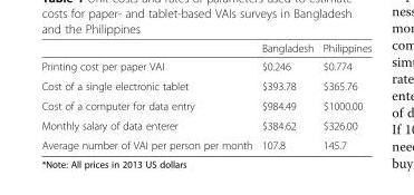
<table><thead><tr><td></td><td>Bangladesh</td><td>Philippines</td></tr></thead><tbody><tr><td>Printing cost per paper VAI</td><td>$0.246</td><td>$0.774</td></tr><tr><td>Cost of a single electronic tablet</td><td>$393.78</td><td>$365.76</td></tr><tr><td>Cost of a computer for data entry</td><td>$984.49</td><td>$1000.00</td></tr><tr><td>Monthly salary of data enterer</td><td>$384.62</td><td>$326.00</td></tr><tr><td>Average number of VAI per person per month</td><td>107.8</td><td>145.7</td></tr></tbody></table>